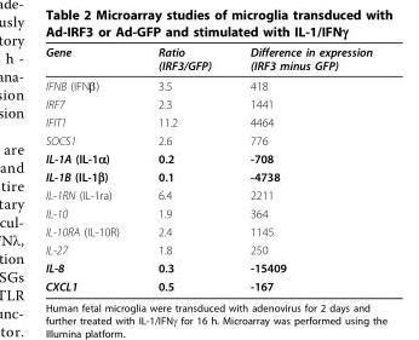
<table><thead><tr><td>Gene</td><td>Ratio (IRF3/GFP)</td><td>Difference in expression (IRF3 minus GFP)</td></tr></thead><tbody><tr><td>IFNB (IFNβ)</td><td>3.5</td><td>418</td></tr><tr><td>IRF7</td><td>2.3</td><td>1441</td></tr><tr><td>IFIT1</td><td>11.2</td><td>4464</td></tr><tr><td>SOCS1</td><td>2.6</td><td>776</td></tr><tr><td>IL-1A (IL-1α)</td><td>0.2</td><td>-708</td></tr><tr><td>IL-1B (IL-1β)</td><td>0.1</td><td>-4738</td></tr><tr><td>IL-1RN (IL-1ra)</td><td>6.4</td><td>2211</td></tr><tr><td>IL-10</td><td>1.9</td><td>364</td></tr><tr><td>IL-10RA (IL-10R)</td><td>2.4</td><td>1145</td></tr><tr><td>IL-27</td><td>1.8</td><td>250</td></tr><tr><td>IL-8</td><td>0.3</td><td>-15409</td></tr><tr><td>CXCL1</td><td>0.5</td><td>-167</td></tr></tbody></table>